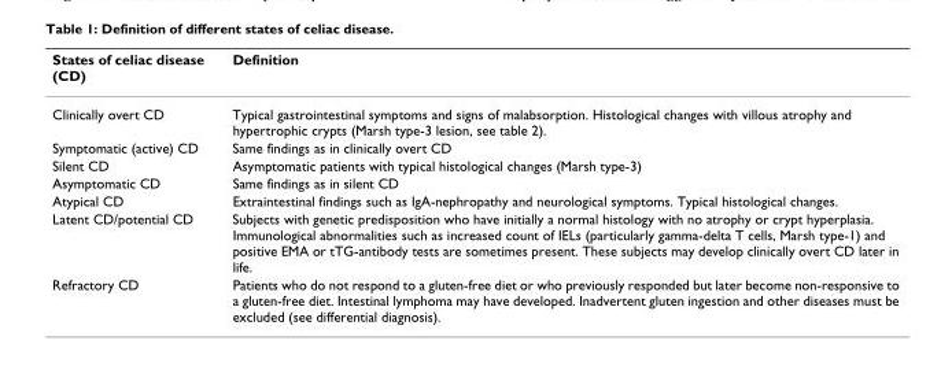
<table><thead><tr><td>States of celiac disease (CD)</td><td>Definition</td></tr></thead><tbody><tr><td>Clinically overt CD</td><td>Typical gastrointestinal symptoms and signs of malabsorption. Histological changes with villous atrophy and hypertrophic crypts (Marsh type-3 lesion, see table 2).</td></tr><tr><td>Symptomatic (active) CD</td><td>Same findings as in clinically overt CD</td></tr><tr><td>Silent CD</td><td>Asymptomatic patients with typical histological changes (Marsh type-3)</td></tr><tr><td>Asymptomatic CD</td><td>Same findings as in silent CD</td></tr><tr><td>Atypical CD</td><td>Extraintestinal findings such as IgA-nephropathy and neurological symptoms. Typical histological changes.</td></tr><tr><td>Latent CD/potential CD</td><td>Subjects with genetic predisposition who have initially a normal histology with no atrophy or crypt hyperplasia. Immunological abnormalities such as increased count of IELs (particularly gamma-delta T cells, Marsh type-1) and positive EMA or tTG-antibody tests are sometimes present. These subjects may develop clinically overt CD later in life.</td></tr><tr><td>Refractory CD</td><td>Patients who do not respond to a gluten-free diet or who previously responded but later become non-responsive to a gluten-free diet. Intestinal lymphoma may have developed. Inadvertent gluten ingestion and other diseases must be excluded (see differential diagnosis).</td></tr></tbody></table>